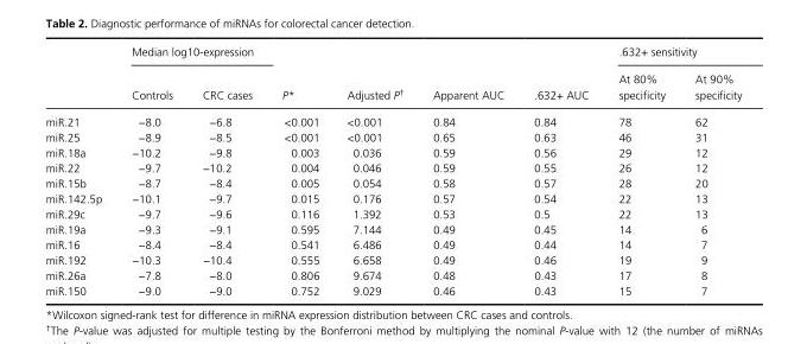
<table><thead><tr><td rowspan="2"></td><td colspan="2">Median log10- expression</td><td rowspan="2">P*</td><td rowspan="2">Adjusted P†</td><td rowspan="2">Apparent AUC</td><td rowspan="2">.632+ AUC</td><td colspan="2">.632+ sensitivity</td></tr><tr><td>Controls</td><td>CRC cases</td><td>At 80% specificity</td><td>At 90% specificity</td></tr></thead><tbody><tr><td>miR.21</td><td>−8.0</td><td>−6.8</td><td>&lt;0.001</td><td>&lt;0.001</td><td>0.84</td><td>0.84</td><td>78</td><td>62</td></tr><tr><td>miR.25</td><td>−8.9</td><td>−8.5</td><td>&lt;0.001</td><td>&lt;0.001</td><td>0.65</td><td>0.63</td><td>46</td><td>31</td></tr><tr><td>miR.18a</td><td>−10.2</td><td>−9.8</td><td>0.003</td><td>0.036</td><td>0.59</td><td>0.56</td><td>29</td><td>12</td></tr><tr><td>miR.22</td><td>−9.7</td><td>−10.2</td><td>0.004</td><td>0.046</td><td>0.59</td><td>0.55</td><td>26</td><td>12</td></tr><tr><td>miR.15b</td><td>−8.7</td><td>−8.4</td><td>0.005</td><td>0.054</td><td>0.58</td><td>0.57</td><td>28</td><td>20</td></tr><tr><td>miR.142.5p</td><td>−10.1</td><td>−9.7</td><td>0.015</td><td>0.176</td><td>0.57</td><td>0.54</td><td>22</td><td>13</td></tr><tr><td>miR.29c</td><td>−9.7</td><td>−9.6</td><td>0.116</td><td>1.392</td><td>0.53</td><td>0.5</td><td>22</td><td>13</td></tr><tr><td>miR.19a</td><td>−9.3</td><td>−9.1</td><td>0.595</td><td>7.144</td><td>0.49</td><td>0.45</td><td>14</td><td>6</td></tr><tr><td>miR.16</td><td>−8.4</td><td>−8.4</td><td>0.541</td><td>6.486</td><td>0.49</td><td>0.44</td><td>14</td><td>7</td></tr><tr><td>miR.192</td><td>−10.3</td><td>−10.4</td><td>0.555</td><td>6.658</td><td>0.49</td><td>0.46</td><td>19</td><td>9</td></tr><tr><td>miR.26a</td><td>−7.8</td><td>−8.0</td><td>0.806</td><td>9.674</td><td>0.48</td><td>0.43</td><td>17</td><td>8</td></tr><tr><td>miR.150</td><td>−9.0</td><td>−9.0</td><td>0.752</td><td>9.029</td><td>0.46</td><td>0.43</td><td>15</td><td>7</td></tr></tbody></table>